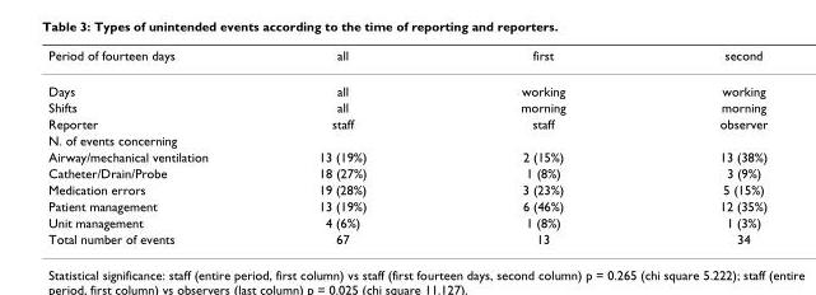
<table><thead><tr><td>Period of fourteen days</td><td>all</td><td>first</td><td>second</td></tr></thead><tbody><tr><td>Days</td><td>all</td><td>working</td><td>working</td></tr><tr><td>Shifts</td><td>all</td><td>morning</td><td>morning</td></tr><tr><td>Reporter</td><td>staff</td><td>staff</td><td>observer</td></tr><tr><td colspan="4">N. of events concerning</td></tr><tr><td>Airway/mechanical ventilation</td><td>13 (19%)</td><td>2 (15%)</td><td>13 (38%)</td></tr><tr><td>Catheter/Drain/Probe</td><td>18 (27%)</td><td>1 (8%)</td><td>3 (9%)</td></tr><tr><td>Medication errors</td><td>19 (28%)</td><td>3 (23%)</td><td>5 (15%)</td></tr><tr><td>Patient management</td><td>13 (19%)</td><td>6 (46%)</td><td>12 (35%)</td></tr><tr><td>Unit management</td><td>4 (6%)</td><td>1 (8%)</td><td>1 (3%)</td></tr><tr><td>Total number of events</td><td>67</td><td>13</td><td>34</td></tr></tbody></table>